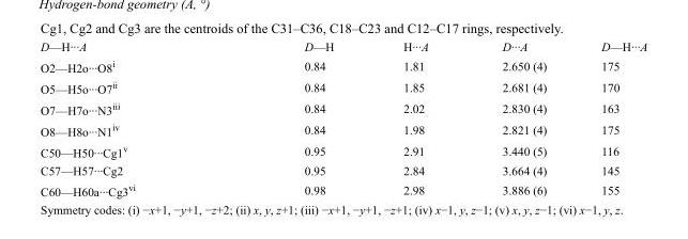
<table><tbody><tr><td>D—H···A</td><td>D—H</td><td>H···A</td><td>D···A</td><td>D—H···A</td></tr><tr><td>O2—H2o···O8<sup>i</sup></td><td>0.84</td><td>1.81</td><td>2.650 (4)</td><td>175</td></tr><tr><td>O5—H5o···O7<sup>ii</sup></td><td>0.84</td><td>1.85</td><td>2.681 (4)</td><td>170</td></tr><tr><td>O7—H7o···N3<sup>iii</sup></td><td>0.84</td><td>2.02</td><td>2.830 (4)</td><td>163</td></tr><tr><td>O8—H8o···N1<sup>iv</sup></td><td>0.84</td><td>1.98</td><td>2.821 (4)</td><td>175</td></tr><tr><td>C50—H50···Cg1<sup>v</sup></td><td>0.95</td><td>2.91</td><td>3.440 (5)</td><td>116</td></tr><tr><td>C57—H57···Cg2</td><td>0.95</td><td>2.84</td><td>3.664 (4)</td><td>145</td></tr><tr><td>C60—H60a···Cg3<sup>vi</sup></td><td>0.98</td><td>2.98</td><td>3.886 (6)</td><td>155</td></tr></tbody></table>